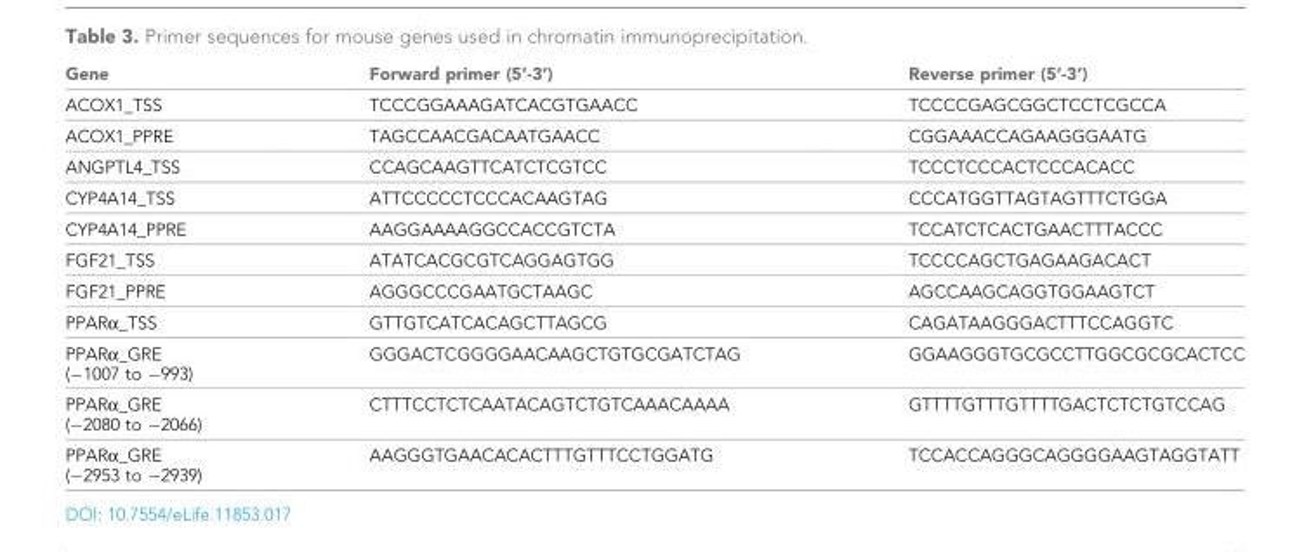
<table><thead><tr><td>Gene</td><td>Forward primer (5’-3’)</td><td>Reverse primer (5’-3’)</td></tr></thead><tbody><tr><td>ACOX1_TSS</td><td>TCCCGGAAAGATCACGTGAACC</td><td>TCCCCGAGCGGCTCCTCGCCA</td></tr><tr><td>ACOX1_PPRE</td><td>TAGCCAACGACAATGAACC</td><td>CGGAAACCAGAAGGGAATG</td></tr><tr><td>ANGPTL4_TSS</td><td>CCAGCAAGTTCATCTCGTCC</td><td>TCCCTCCCACTCCCACACC</td></tr><tr><td>CYP4A14_TSS</td><td>ATTCCCCCTCCCACAAGTAG</td><td>CCCATGGTTAGTAGTTTCTGGA</td></tr><tr><td>CYP4A14_PPRE</td><td>AAGGAAAAGGCCACCGTCTA</td><td>TCCATCTCACTGAACTTTACCC</td></tr><tr><td>FGF21_TSS</td><td>ATATCACGCGTCAGGAGTGG</td><td>TCCCCAGCTGAGAAGACACT</td></tr><tr><td>FGF21_PPRE</td><td>AGGGCCCGAATGCTAAGC</td><td>AGCCAAGCAGGTGGAAGTCT</td></tr><tr><td>PPARα_TSS</td><td>GTTGTCATCACAGCTTAGCG</td><td>CAGATAAGGGACTTTCCAGGTC</td></tr><tr><td>PPARα_GRE (−1007 to −993)</td><td>GGGACTCGGGGAACAAGCTGTGCGATCTAG</td><td>GGAAGGGTGCGCCTTGGCGCGCACTCC</td></tr><tr><td>PPARα_GRE (−2080 to −2066)</td><td>CTTTCCTCTCAATACAGTCTGTCAAACAAAA</td><td>GTTTTGTTTGTTTTGACTCTCTGTCCAG</td></tr><tr><td>PPARα_GRE (−2953 to −2939)</td><td>AAGGGTGAACACACTTTGTTTCCTGGATG</td><td>TCCACCAGGGCAGGGGAAGTAGGTATT</td></tr></tbody></table>